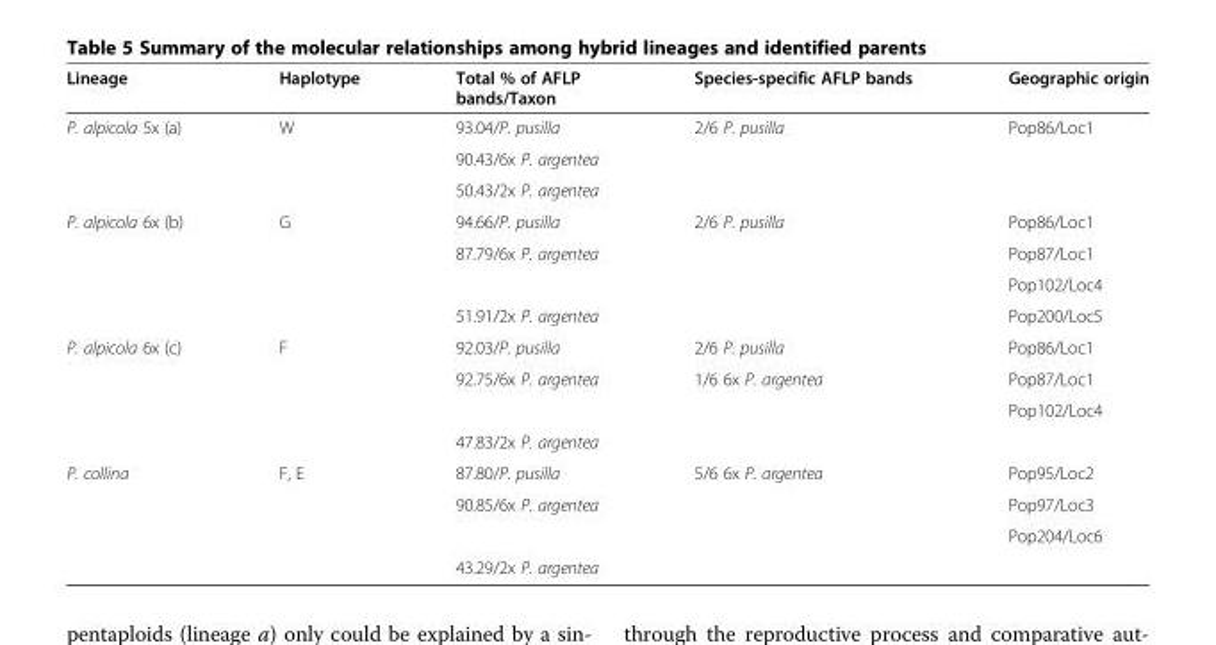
<table><thead><tr><td>Lineage</td><td>Haplotype</td><td>Total % of AFLP bands/Taxon</td><td>Species-specific AFLP bands</td><td>Geographic origin</td></tr></thead><tbody><tr><td rowspan="3">P. alpicola 5x (a)</td><td rowspan="3">W</td><td>93.04/P. pusilla</td><td>2/6 P. pusilla</td><td>Pop86/Loc1</td></tr><tr><td>90.43/6x P. argentea</td><td></td><td></td></tr><tr><td>50.43/2x P. argentea</td><td></td><td></td></tr><tr><td rowspan="4">P. alpicola 6x (b)</td><td rowspan="4">G</td><td>94.66/P. pusilla</td><td>2/6 P. pusilla</td><td>Pop86/Loc1</td></tr><tr><td>87.79/6x P. argentea</td><td></td><td>Pop87/Loc1</td></tr><tr><td></td><td></td><td>Pop102/Loc4</td></tr><tr><td>51.91/2x P. argentea</td><td></td><td>Pop200/Loc5</td></tr><tr><td rowspan="4">P. alpicola 6x (c)</td><td rowspan="4">F</td><td>92.03/P. pusilla</td><td>2/6 P. pusilla</td><td>Pop86/Loc1</td></tr><tr><td>92.75/6x P. argentea</td><td>1/6 6x P. argentea</td><td>Pop87/Loc1</td></tr><tr><td></td><td></td><td>Pop102/Loc4</td></tr><tr><td>47.83/2x P. argentea</td><td></td><td></td></tr><tr><td rowspan="4">P. collina</td><td>F, E</td><td>87.80/P. pusilla</td><td>5/6 6x P. argentea</td><td>Pop95/Loc2</td></tr><tr><td></td><td>90.85/6x P. argentea</td><td></td><td>Pop97/Loc3</td></tr><tr><td></td><td></td><td></td><td>Pop204/Loc6</td></tr><tr><td></td><td>43.29/2x P. argentea</td><td></td><td></td></tr></tbody></table>